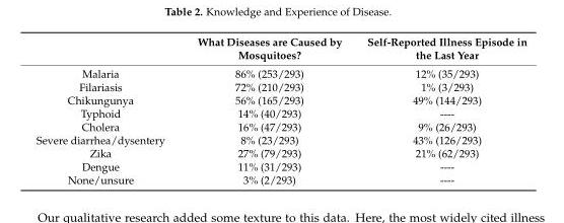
<table><thead><tr><td></td><td>What Diseases are Caused by Mosquitoes?</td><td>Self-Reported Illness Episode in the Last Year</td></tr></thead><tbody><tr><td>Malaria</td><td>86% (253/293)</td><td>12% (35/293)</td></tr><tr><td>Filariasis</td><td>72% (210/293)</td><td>1% (3/293)</td></tr><tr><td>Chikungunya</td><td>56% (165/293)</td><td>49% (144/293)</td></tr><tr><td>Typhoid</td><td>14% (40/293)</td><td>----</td></tr><tr><td>Cholera</td><td>16% (47/293)</td><td>9% (26/293)</td></tr><tr><td>Severe diarrhea/dysentery</td><td>8% (23/293)</td><td>43% (126/293)</td></tr><tr><td>Zika</td><td>27% (79/293)</td><td>21% (62/293)</td></tr><tr><td>Dengue</td><td>11% (31/293)</td><td>----</td></tr><tr><td>None/unsure</td><td>3% (2/293)</td><td>----</td></tr></tbody></table>